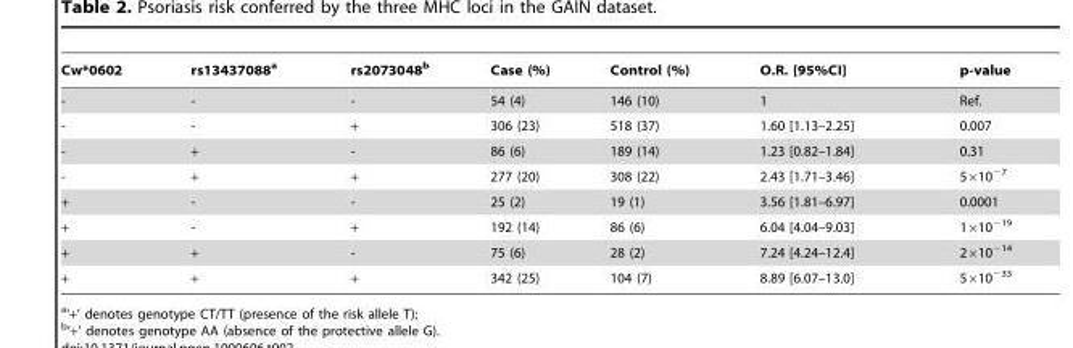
<table><thead><tr><td>Cw*0602</td><td>rs13437088<sup>a</sup></td><td>rs2073048<sup>b</sup></td><td>Case (%)</td><td>Control (%)</td><td>O.R. [95%CI]</td><td>p-value</td></tr></thead><tbody><tr><td>-</td><td>-</td><td>-</td><td>54 (4)</td><td>146 (10)</td><td>1</td><td>Ref.</td></tr><tr><td>-</td><td>-</td><td>+</td><td>306 (23)</td><td>518 (37)</td><td>1.60 [1.13–2.25]</td><td>0.007</td></tr><tr><td>-</td><td>+</td><td>-</td><td>86 (6)</td><td>189 (14)</td><td>1.23 [0.82–1.84]</td><td>0.31</td></tr><tr><td>-</td><td>+</td><td>+</td><td>277 (20)</td><td>308 (22)</td><td>2.43 [1.71–3.46]</td><td>5×10<sup>−7</sup></td></tr><tr><td>+</td><td>-</td><td>-</td><td>25 (2)</td><td>19 (1)</td><td>3.56 [1.81–6.97]</td><td>0.0001</td></tr><tr><td>+</td><td>-</td><td>+</td><td>192 (14)</td><td>86 (6)</td><td>6.04 [4.04–9.03]</td><td>1×10<sup>−19</sup></td></tr><tr><td>+</td><td>+</td><td>-</td><td>75 (6)</td><td>28 (2)</td><td>7.24 [4.24–12.4]</td><td>2×10<sup>−14</sup></td></tr><tr><td>+</td><td>+</td><td>+</td><td>342 (25)</td><td>104 (7)</td><td>8.89 [6.07–13.0]</td><td>5×10<sup>−33</sup></td></tr></tbody></table>